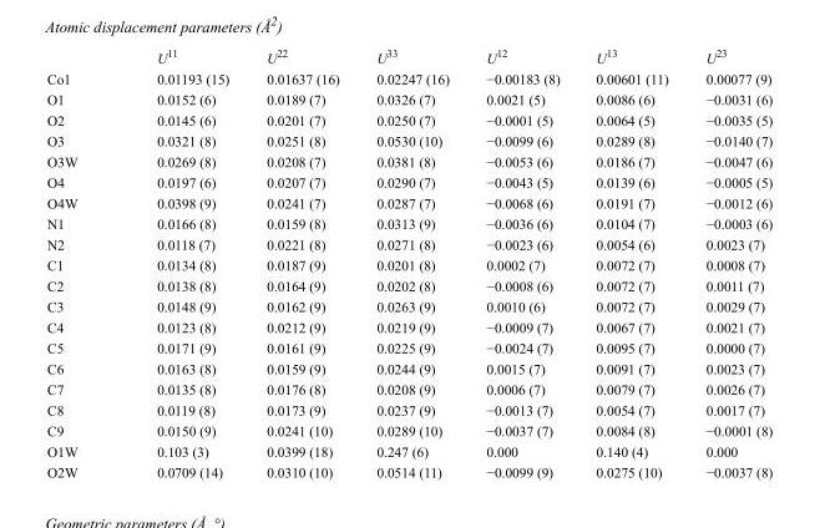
<table><thead><tr><td></td><td>U<sup>11</sup></td><td>U<sup>22</sup></td><td>U<sup>33</sup></td><td>U<sup>12</sup></td><td>U<sup>13</sup></td><td>U<sup>23</sup></td></tr></thead><tbody><tr><td>Co1</td><td>0.01193 (15)</td><td>0.01637 (16)</td><td>0.02247 (16)</td><td>−0.00183 (8)</td><td>0.00601 (11)</td><td>0.00077 (9)</td></tr><tr><td>O1</td><td>0.0152 (6)</td><td>0.0189 (7)</td><td>0.0326 (7)</td><td>0.0021 (5)</td><td>0.0086 (6)</td><td>−0.0031 (6)</td></tr><tr><td>O2</td><td>0.0145 (6)</td><td>0.0201 (7)</td><td>0.0250 (7)</td><td>−0.0001 (5)</td><td>0.0064 (5)</td><td>−0.0035 (5)</td></tr><tr><td>O3</td><td>0.0321 (8)</td><td>0.0251 (8)</td><td>0.0530 (10)</td><td>−0.0099 (6)</td><td>0.0289 (8)</td><td>−0.0140 (7)</td></tr><tr><td>O3W</td><td>0.0269 (8)</td><td>0.0208 (7)</td><td>0.0381 (8)</td><td>−0.0053 (6)</td><td>0.0186 (7)</td><td>−0.0047 (6)</td></tr><tr><td>O4</td><td>0.0197 (6)</td><td>0.0207 (7)</td><td>0.0290 (7)</td><td>−0.0043 (5)</td><td>0.0139 (6)</td><td>−0.0005 (5)</td></tr><tr><td>O4W</td><td>0.0398 (9)</td><td>0.0241 (7)</td><td>0.0287 (7)</td><td>−0.0068 (6)</td><td>0.0191 (7)</td><td>−0.0012 (6)</td></tr><tr><td>N1</td><td>0.0166 (8)</td><td>0.0159 (8)</td><td>0.0313 (9)</td><td>−0.0036 (6)</td><td>0.0104 (7)</td><td>−0.0003 (6)</td></tr><tr><td>N2</td><td>0.0118 (7)</td><td>0.0221 (8)</td><td>0.0271 (8)</td><td>−0.0023 (6)</td><td>0.0054 (6)</td><td>0.0023 (7)</td></tr><tr><td>C1</td><td>0.0134 (8)</td><td>0.0187 (9)</td><td>0.0201 (8)</td><td>0.0002 (7)</td><td>0.0072 (7)</td><td>0.0008 (7)</td></tr><tr><td>C2</td><td>0.0138 (8)</td><td>0.0164 (9)</td><td>0.0202 (8)</td><td>−0.0008 (6)</td><td>0.0072 (7)</td><td>0.0011 (7)</td></tr><tr><td>C3</td><td>0.0148 (9)</td><td>0.0162 (9)</td><td>0.0263 (9)</td><td>0.0010 (6)</td><td>0.0072 (7)</td><td>0.0029 (7)</td></tr><tr><td>C4</td><td>0.0123 (8)</td><td>0.0212 (9)</td><td>0.0219 (9)</td><td>−0.0009 (7)</td><td>0.0067 (7)</td><td>0.0021 (7)</td></tr><tr><td>C5</td><td>0.0171 (9)</td><td>0.0161 (9)</td><td>0.0225 (9)</td><td>−0.0024 (7)</td><td>0.0095 (7)</td><td>0.0000 (7)</td></tr><tr><td>C6</td><td>0.0163 (8)</td><td>0.0159 (9)</td><td>0.0244 (9)</td><td>0.0015 (7)</td><td>0.0091 (7)</td><td>0.0023 (7)</td></tr><tr><td>C7</td><td>0.0135 (8)</td><td>0.0176 (8)</td><td>0.0208 (9)</td><td>0.0006 (7)</td><td>0.0079 (7)</td><td>0.0026 (7)</td></tr><tr><td>C8</td><td>0.0119 (8)</td><td>0.0173 (9)</td><td>0.0237 (9)</td><td>−0.0013 (7)</td><td>0.0054 (7)</td><td>0.0017 (7)</td></tr><tr><td>C9</td><td>0.0150 (9)</td><td>0.0241 (10)</td><td>0.0289 (10)</td><td>−0.0037 (7)</td><td>0.0084 (8)</td><td>−0.0001 (8)</td></tr><tr><td>O1W</td><td>0.103 (3)</td><td>0.0399 (18)</td><td>0.247 (6)</td><td>0.000</td><td>0.140 (4)</td><td>0.000</td></tr><tr><td>O2W</td><td>0.0709 (14)</td><td>0.0310 (10)</td><td>0.0514 (11)</td><td>−0.0099 (9)</td><td>0.0275 (10)</td><td>−0.0037 (8)</td></tr></tbody></table>